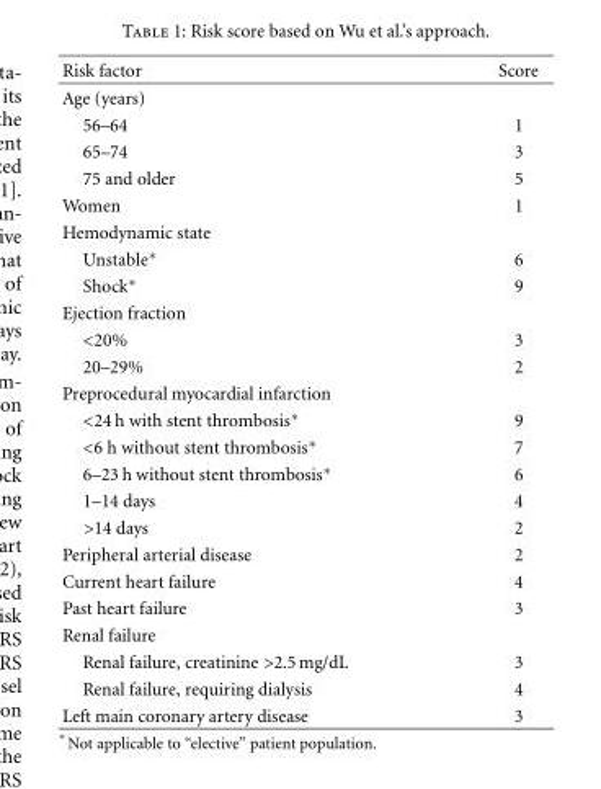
<table><thead><tr><td>Risk factor</td><td>Score</td></tr></thead><tbody><tr><td colspan="2">Age (years)</td></tr><tr><td>56–64</td><td>1</td></tr><tr><td>65–74</td><td>3</td></tr><tr><td>75 and older</td><td>5</td></tr><tr><td>Women</td><td>1</td></tr><tr><td colspan="2">Hemodynamic state</td></tr><tr><td>Unstable∗</td><td>6</td></tr><tr><td>Shock∗</td><td>9</td></tr><tr><td colspan="2">Ejection fraction</td></tr><tr><td>&lt;20%</td><td>3</td></tr><tr><td>20–29%</td><td>2</td></tr><tr><td colspan="2">Preprocedural myocardial infarction</td></tr><tr><td>&lt;24 h with stent thrombosis∗</td><td>9</td></tr><tr><td>&lt;6 h without stent thrombosis∗</td><td>7</td></tr><tr><td>6–23 h without stent thrombosis∗</td><td>6</td></tr><tr><td>1–14 days</td><td>4</td></tr><tr><td>&gt;14 days</td><td>2</td></tr><tr><td>Peripheral arterial disease</td><td>2</td></tr><tr><td>Current heart failure</td><td>4</td></tr><tr><td>Past heart failure</td><td>3</td></tr><tr><td colspan="2">Renal failure</td></tr><tr><td>Renal failure, creatinine &gt;2.5 mg/dL</td><td>3</td></tr><tr><td>Renal failure, requiring dialysis</td><td>4</td></tr><tr><td>Left main coronary artery disease</td><td>3</td></tr></tbody></table>